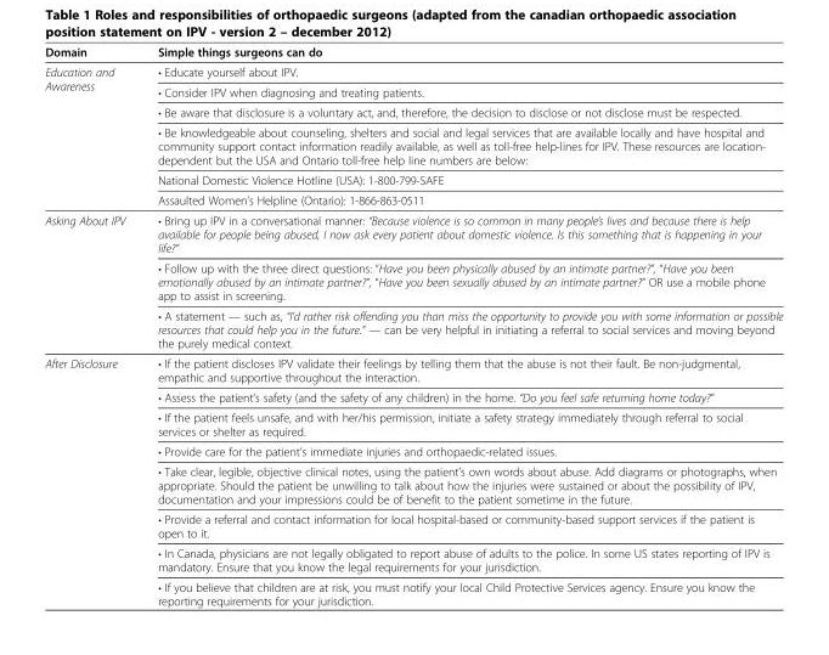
<table><thead><tr><td>Domain</td><td>Simple things surgeons can do</td></tr></thead><tbody><tr><td rowspan="6">Education and Awareness</td><td>• Educate yourself about IPV.</td></tr><tr><td>• Consider IPV when diagnosing and treating patients.</td></tr><tr><td>• Be aware that disclosure is a voluntary act, and, therefore, the decision to disclose or not disclose must be respected.</td></tr><tr><td>• Be knowledgeable about counseling, shelters and social and legal services that are available locally and have hospital and community support contact information readily available, as well as toll-free help-lines for IPV. These resources are location- dependent but the USA and Ontario toll-free help line numbers are below:</td></tr><tr><td>National Domestic Violence Hotline (USA): 1-800-799-SAFE</td></tr><tr><td>Assaulted Women’s Helpline (Ontario): 1-866-863-0511</td></tr><tr><td rowspan="3">Asking About IPV</td><td>• Bring up IPV in a conversational manner: “Because violence is so common in many people’s lives and because there is help available for people being abused, I now ask every patient about domestic violence. Is this something that is happening in your life?”</td></tr><tr><td>• Follow up with the three direct questions: “Have you been physically abused by an intimate partner?”, “Have you been emotionally abused by an intimate partner?”, “Have you been sexually abused by an intimate partner?” OR use a mobile phone app to assist in screening.</td></tr><tr><td>• A statement — such as, “I’d rather risk offending you than miss the opportunity to provide you with some information or possible resources that could help you in the future.” — can be very helpful in initiating a referral to social services and moving beyond the purely medical context.</td></tr><tr><td rowspan="8">After Disclosure</td><td>• If the patient discloses IPV validate their feelings by telling them that the abuse is not their fault. Be non-judgmental, empathic and supportive throughout the interaction.</td></tr><tr><td>• Assess the patient’s safety (and the safety of any children) in the home. “Do you feel safe returning home today?”</td></tr><tr><td>• If the patient feels unsafe, and with her/his permission, initiate a safety strategy immediately through referral to social services or shelter as required.</td></tr><tr><td>• Provide care for the patient’s immediate injuries and orthopaedic-related issues.</td></tr><tr><td>• Take clear, legible, objective clinical notes, using the patient’s own words about abuse. Add diagrams or photographs, when appropriate. Should the patient be unwilling to talk about how the injuries were sustained or about the possibility of IPV, documentation and your impressions could be of benefit to the patient sometime in the future.</td></tr><tr><td>• Provide a referral and contact information for local hospital-based or community-based support services if the patient is open to it.</td></tr><tr><td>• In Canada, physicians are not legally obligated to report abuse of adults to the police. In some US states reporting of IPV is mandatory. Ensure that you know the legal requirements for your jurisdiction.</td></tr><tr><td>• If you believe that children are at risk, you must notify your local Child Protective Services agency. Ensure you know the reporting requirements for your jurisdiction.</td></tr></tbody></table>